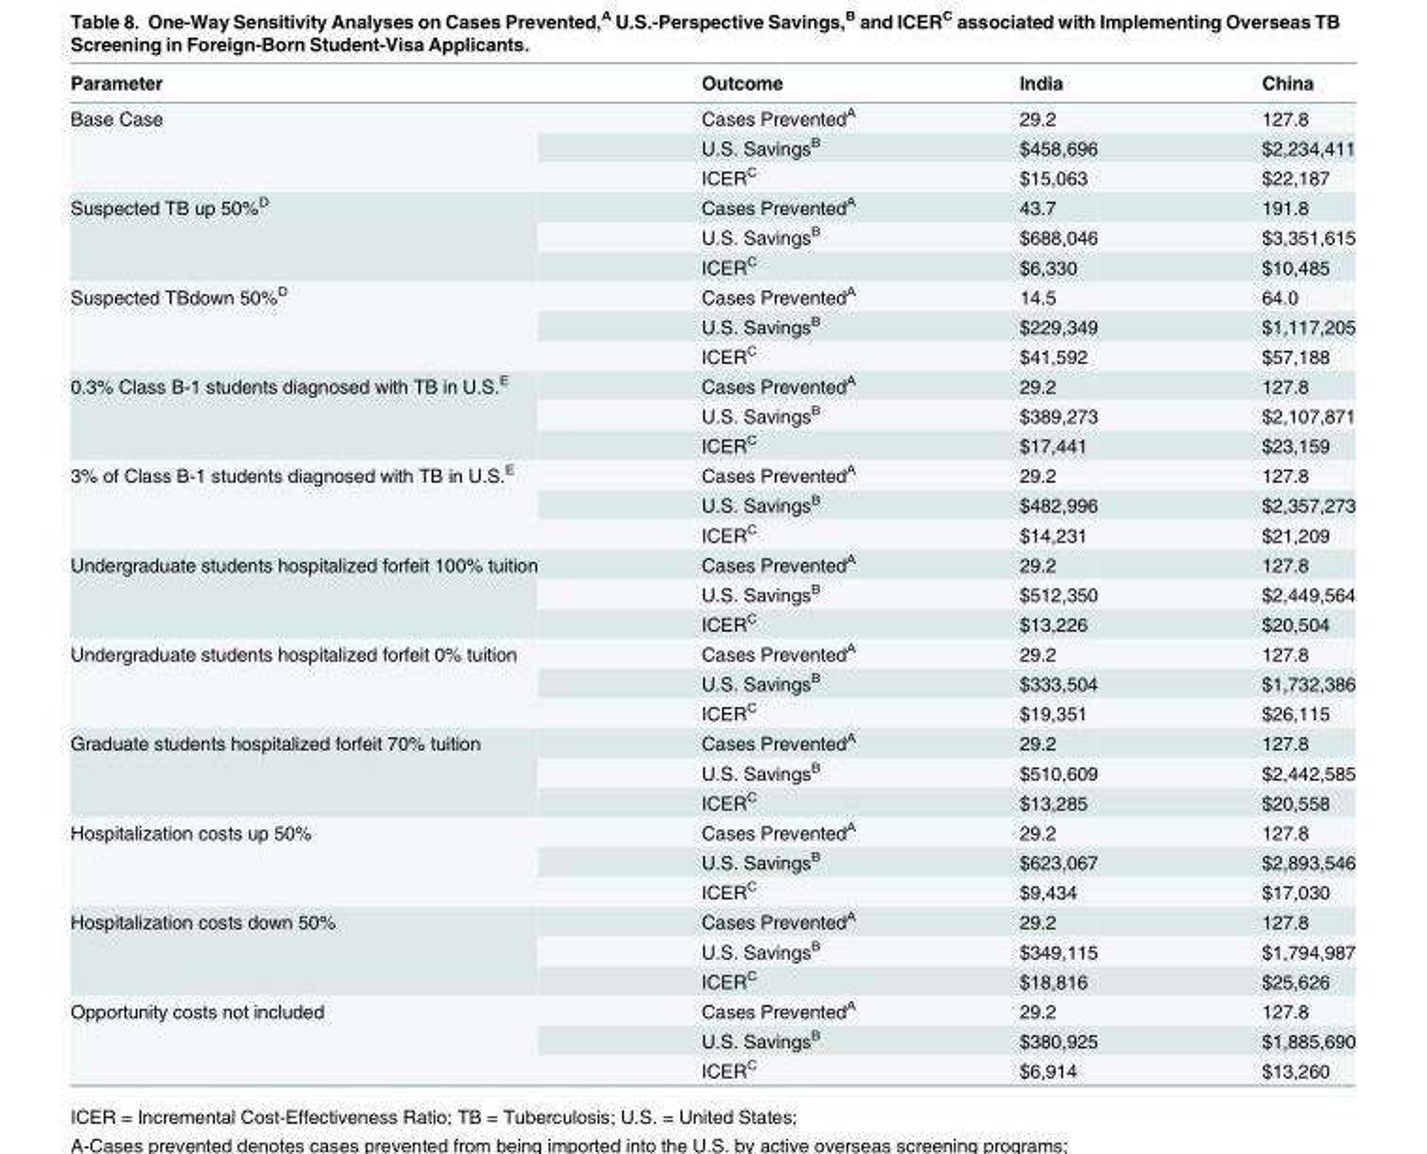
<table><thead><tr><td>Parameter</td><td>Outcome</td><td>India</td><td>China</td></tr></thead><tbody><tr><td rowspan="3">Base Case</td><td>Cases Prevented<sup>A</sup></td><td>29.2</td><td>127.8</td></tr><tr><td>U.S. Savings<sup>B</sup></td><td>$458,696</td><td>$2,234,411</td></tr><tr><td>ICER<sup>C</sup></td><td>$15,063</td><td>$22,187</td></tr><tr><td rowspan="3">Suspected TB up 50%<sup>D</sup></td><td>Cases Prevented<sup>A</sup></td><td>43.7</td><td>191.8</td></tr><tr><td>U.S. Savings<sup>B</sup></td><td>$688,046</td><td>$3,351,615</td></tr><tr><td>ICER<sup>C</sup></td><td>$6,330</td><td>$10,485</td></tr><tr><td rowspan="3">Suspected TBdown 50%<sup>D</sup></td><td>Cases Prevented<sup>A</sup></td><td>14.5</td><td>64.0</td></tr><tr><td>U.S. Savings<sup>B</sup></td><td>$229,349</td><td>$1,117,205</td></tr><tr><td>ICER<sup>C</sup></td><td>$41,592</td><td>$57,188</td></tr><tr><td rowspan="3">0.3% Class B-1 students diagnosed with TB in U.S.<sup>E</sup></td><td>Cases Prevented<sup>A</sup></td><td>29.2</td><td>127.8</td></tr><tr><td>U.S. Savings<sup>B</sup></td><td>$389,273</td><td>$2,107,871</td></tr><tr><td>ICER<sup>C</sup></td><td>$17,441</td><td>$23,159</td></tr><tr><td rowspan="3">3% of Class B-1 students diagnosed with TB in U.S.<sup>E</sup></td><td>Cases Prevented<sup>A</sup></td><td>29.2</td><td>127.8</td></tr><tr><td>U.S. Savings<sup>B</sup></td><td>$482,996</td><td>$2,357,273</td></tr><tr><td>ICER<sup>C</sup></td><td>$14,231</td><td>$21,209</td></tr><tr><td rowspan="3">Undergraduate students hospitalized forfeit 100% tuition</td><td>Cases Prevented<sup>A</sup></td><td>29.2</td><td>127.8</td></tr><tr><td>U.S. Savings<sup>B</sup></td><td>$512,350</td><td>$2,449,564</td></tr><tr><td>ICER<sup>C</sup></td><td>$13,226</td><td>$20,504</td></tr><tr><td rowspan="3">Undergraduate students hospitalized forfeit 0% tuition</td><td>Cases Prevented<sup>A</sup></td><td>29.2</td><td>127.8</td></tr><tr><td>U.S. Savings<sup>B</sup></td><td>$333,504</td><td>$1,732,386</td></tr><tr><td>ICER<sup>C</sup></td><td>$19,351</td><td>$26,115</td></tr><tr><td rowspan="3">Graduate students hospitalized forfeit 70% tuition</td><td>Cases Prevented<sup>A</sup></td><td>29.2</td><td>127.8</td></tr><tr><td>U.S. Savings<sup>B</sup></td><td>$510,609</td><td>$2,442,585</td></tr><tr><td>ICER<sup>C</sup></td><td>$13,285</td><td>$20,558</td></tr><tr><td rowspan="3">Hospitalization costs up 50%</td><td>Cases Prevented<sup>A</sup></td><td>29.2</td><td>127.8</td></tr><tr><td>U.S. Savings<sup>B</sup></td><td>$623,067</td><td>$2,893,546</td></tr><tr><td>ICER<sup>C</sup></td><td>$9,434</td><td>$17,030</td></tr><tr><td rowspan="3">Hospitalization costs down 50%</td><td>Cases Prevented<sup>A</sup></td><td>29.2</td><td>127.8</td></tr><tr><td>U.S. Savings<sup>B</sup></td><td>$349,115</td><td>$1,794,987</td></tr><tr><td>ICER<sup>C</sup></td><td>$18,816</td><td>$25,626</td></tr><tr><td rowspan="3">Opportunity costs not included</td><td>Cases Prevented<sup>A</sup></td><td>29.2</td><td>127.8</td></tr><tr><td>U.S. Savings<sup>B</sup></td><td>$380,925</td><td>$1,885,690</td></tr><tr><td>ICER<sup>C</sup></td><td>$6,914</td><td>$13,260</td></tr></tbody></table>